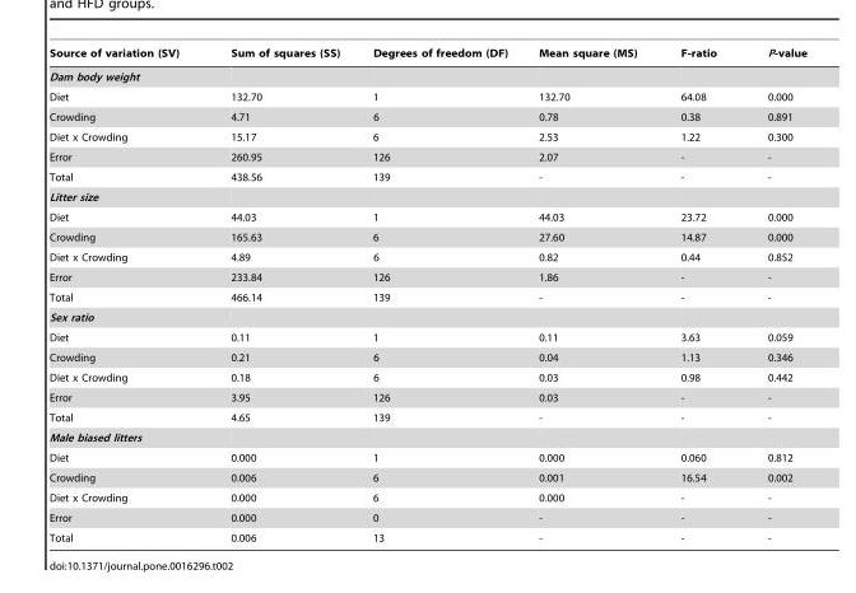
<table><thead><tr><td>Source of variation (SV)</td><td>Sum of squares (SS)</td><td>Degrees of freedom (DF)</td><td>Mean square (MS)</td><td>F-ratio</td><td>P-value</td></tr></thead><tbody><tr><td colspan="6">Dam body weight</td></tr><tr><td>Diet</td><td>132.70</td><td>1</td><td>132.70</td><td>64.08</td><td>0.000</td></tr><tr><td>Crowding</td><td>4.71</td><td>6</td><td>0.78</td><td>0.38</td><td>0.891</td></tr><tr><td>Diet x Crowding</td><td>15.17</td><td>6</td><td>2.53</td><td>1.22</td><td>0.300</td></tr><tr><td>Error</td><td>260.95</td><td>126</td><td>2.07</td><td>-</td><td>-</td></tr><tr><td>Total</td><td>438.56</td><td>139</td><td>-</td><td>-</td><td>-</td></tr><tr><td colspan="6">Litter size</td></tr><tr><td>Diet</td><td>44.03</td><td>1</td><td>44.03</td><td>23.72</td><td>0.000</td></tr><tr><td>Crowding</td><td>165.63</td><td>6</td><td>27.60</td><td>14.87</td><td>0.000</td></tr><tr><td>Diet x Crowding</td><td>4.89</td><td>6</td><td>0.82</td><td>0.44</td><td>0.852</td></tr><tr><td>Error</td><td>233.84</td><td>126</td><td>1.86</td><td>-</td><td>-</td></tr><tr><td>Total</td><td>466.14</td><td>139</td><td>-</td><td>-</td><td>-</td></tr><tr><td colspan="6">Sex ratio</td></tr><tr><td>Diet</td><td>0.11</td><td>1</td><td>0.11</td><td>3.63</td><td>0.059</td></tr><tr><td>Crowding</td><td>0.21</td><td>6</td><td>0.04</td><td>1.13</td><td>0.346</td></tr><tr><td>Diet x Crowding</td><td>0.18</td><td>6</td><td>0.03</td><td>0.98</td><td>0.442</td></tr><tr><td>Error</td><td>3.95</td><td>126</td><td>0.03</td><td>-</td><td>-</td></tr><tr><td>Total</td><td>4.65</td><td>139</td><td>-</td><td>-</td><td>-</td></tr><tr><td colspan="6">Male biased litters</td></tr><tr><td>Diet</td><td>0.000</td><td>1</td><td>0.000</td><td>0.060</td><td>0.812</td></tr><tr><td>Crowding</td><td>0.006</td><td>6</td><td>0.001</td><td>16.54</td><td>0.002</td></tr><tr><td>Diet x Crowding</td><td>0.000</td><td>6</td><td>0.000</td><td>-</td><td>-</td></tr><tr><td>Error</td><td>0.000</td><td>0</td><td>-</td><td>-</td><td>-</td></tr><tr><td>Total</td><td>0.006</td><td>13</td><td>-</td><td>-</td><td>-</td></tr></tbody></table>